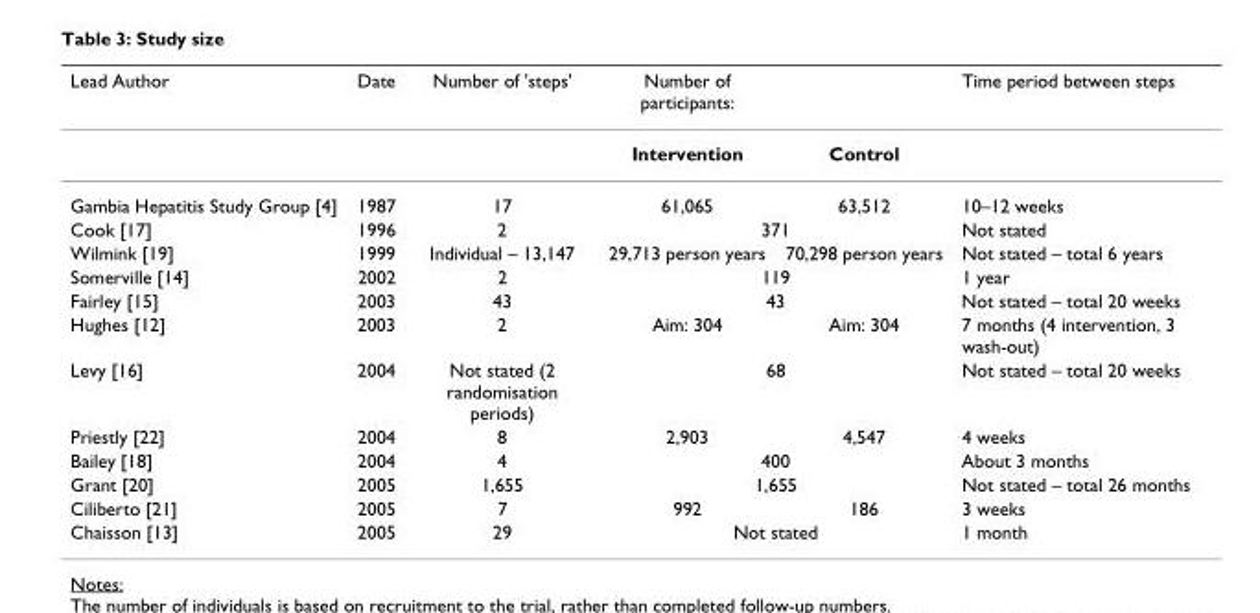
<table><thead><tr><td>Lead Author</td><td>Date</td><td>Number of &#x27;steps&#x27;</td><td>Number of participants:</td><td></td><td>Time period between steps</td></tr></thead><tbody><tr><td></td><td></td><td></td><td>Intervention</td><td>Control</td><td></td></tr><tr><td>Gambia Hepatitis Study Group [4]</td><td>1987</td><td>17</td><td>61,065</td><td>63,512</td><td>10–12 weeks</td></tr><tr><td>Cook [17]</td><td>1996</td><td>2</td><td colspan="2">371</td><td>Not stated</td></tr><tr><td>Wilmink [19]</td><td>1999</td><td>Individual – 13,147</td><td>29,713 person years</td><td>70,298 person years</td><td>Not stated – total 6 years</td></tr><tr><td>Somerville [14]</td><td>2002</td><td>2</td><td colspan="2">119</td><td>1 year</td></tr><tr><td>Fairley [15]</td><td>2003</td><td>43</td><td colspan="2">43</td><td>Not stated – total 20 weeks</td></tr><tr><td>Hughes [12]</td><td>2003</td><td>2</td><td>Aim: 304</td><td>Aim: 304</td><td>7 months (4 intervention, 3 wash-out)</td></tr><tr><td>Levy [16]</td><td>2004</td><td>Not stated (2 randomisation periods)</td><td colspan="2">68</td><td>Not stated – total 20 weeks</td></tr><tr><td>Priestly [22]</td><td>2004</td><td>8</td><td>2,903</td><td>4,547</td><td>4 weeks</td></tr><tr><td>Bailey [18]</td><td>2004</td><td>4</td><td colspan="2">400</td><td>About 3 months</td></tr><tr><td>Grant [20]</td><td>2005</td><td>1,655</td><td colspan="2">1,655</td><td>Not stated – total 26 months</td></tr><tr><td>Ciliberto [21]</td><td>2005</td><td>7</td><td>992</td><td>186</td><td>3 weeks</td></tr><tr><td>Chaisson [13]</td><td>2005</td><td>29</td><td colspan="2">Not stated</td><td>1 month</td></tr></tbody></table>